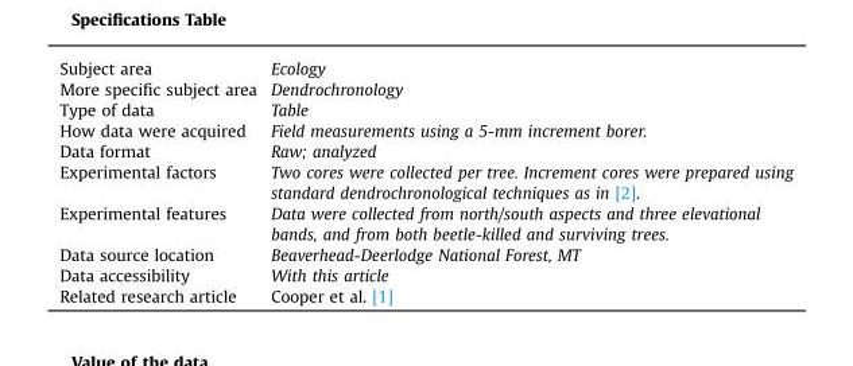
<table><tbody><tr><td>Subject area</td><td>Ecology</td></tr><tr><td>More specific subject area</td><td>Dendrochronology</td></tr><tr><td>Type of data</td><td>Table</td></tr><tr><td>How data were acquired</td><td>Field measurements using a 5-mm increment borer.</td></tr><tr><td>Data format</td><td>Raw; analyzed</td></tr><tr><td>Experimental factors</td><td>Two cores were collected per tree. Increment cores were prepared using standard dendrochronological techniques as in [2].</td></tr><tr><td>Experimental features</td><td>Data were collected from north/south aspects and three elevational bands, and from both beetle-killed and surviving trees.</td></tr><tr><td>Data source location</td><td>Beaverhead-Deerlodge National Forest, MT</td></tr><tr><td>Data accessibility</td><td>With this article</td></tr><tr><td>Related research article</td><td>Cooper et al. [1]</td></tr></tbody></table>